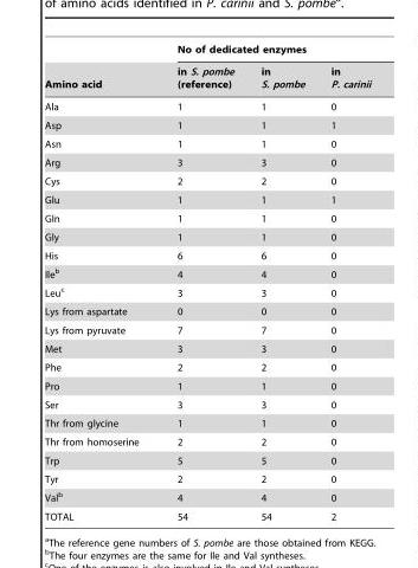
<table><thead><tr><td rowspan="2">Amino acid</td><td colspan="3">No of dedicated enzymes</td></tr><tr><td>in S. pombe (reference)</td><td>in S. pombe</td><td>in P. carinii</td></tr></thead><tbody><tr><td>Ala</td><td>1</td><td>1</td><td>0</td></tr><tr><td>Asp</td><td>1</td><td>1</td><td>1</td></tr><tr><td>Asn</td><td>1</td><td>1</td><td>0</td></tr><tr><td>Arg</td><td>3</td><td>3</td><td>0</td></tr><tr><td>Cys</td><td>2</td><td>2</td><td>0</td></tr><tr><td>Glu</td><td>1</td><td>1</td><td>1</td></tr><tr><td>Gln</td><td>1</td><td>1</td><td>0</td></tr><tr><td>Gly</td><td>1</td><td>1</td><td>0</td></tr><tr><td>His</td><td>6</td><td>6</td><td>0</td></tr><tr><td>Ile<sup>b</sup></td><td>4</td><td>4</td><td>0</td></tr><tr><td>Leu<sup>c</sup></td><td>3</td><td>3</td><td>0</td></tr><tr><td>Lys from aspartate</td><td>0</td><td>0</td><td>0</td></tr><tr><td>Lys from pyruvate</td><td>7</td><td>7</td><td>0</td></tr><tr><td>Met</td><td>3</td><td>3</td><td>0</td></tr><tr><td>Phe</td><td>2</td><td>2</td><td>0</td></tr><tr><td>Pro</td><td>1</td><td>1</td><td>0</td></tr><tr><td>Ser</td><td>3</td><td>3</td><td>0</td></tr><tr><td>Thr from glycine</td><td>1</td><td>1</td><td>0</td></tr><tr><td>Thr from homoserine</td><td>2</td><td>2</td><td>0</td></tr><tr><td>Trp</td><td>5</td><td>5</td><td>0</td></tr><tr><td>Tyr</td><td>2</td><td>2</td><td>0</td></tr><tr><td>Val<sup>b</sup></td><td>4</td><td>4</td><td>0</td></tr><tr><td>TOTAL</td><td>54</td><td>54</td><td>2</td></tr></tbody></table>